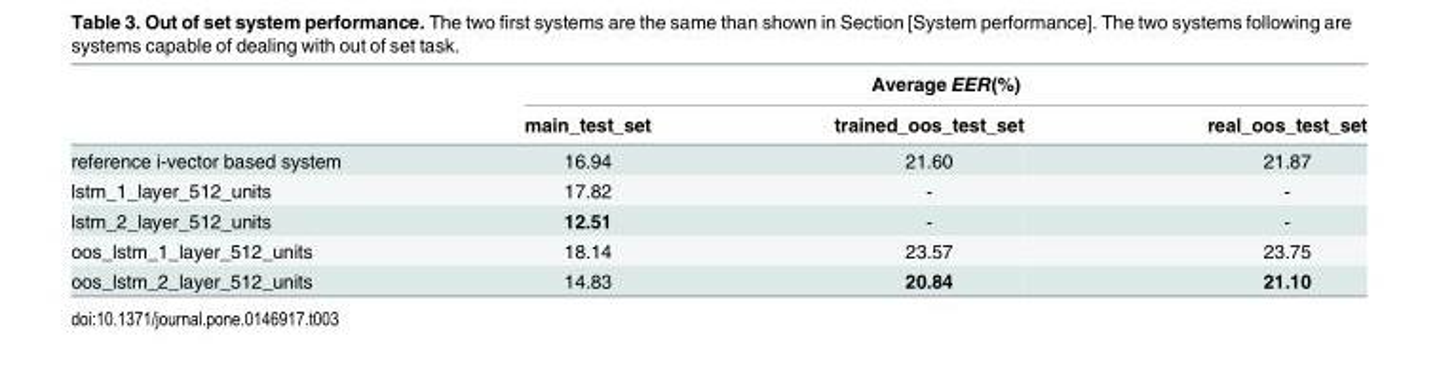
<table><thead><tr><td rowspan="2"></td><td colspan="3">Average EER(%)</td></tr><tr><td>main_test_set</td><td>trained_oos_test_set</td><td>real_oos_test_set</td></tr></thead><tbody><tr><td>reference i-vector based system</td><td>16.94</td><td>21.60</td><td>21.87</td></tr><tr><td>lstm_1_layer_512_units</td><td>17.82</td><td>-</td><td>-</td></tr><tr><td>lstm_2_layer_512_units</td><td>12.51</td><td>-</td><td>-</td></tr><tr><td>oos_lstm_1_layer_512_units</td><td>18.14</td><td>23.57</td><td>23.75</td></tr><tr><td>oos_lstm_2_layer_512_units</td><td>14.83</td><td>20.84</td><td>21.10</td></tr></tbody></table>